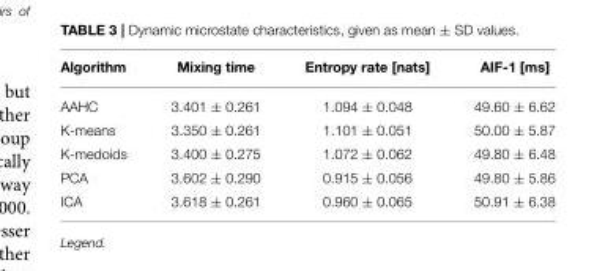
<table><thead><tr><td>Algorithm</td><td>Mixing time</td><td>Entropy rate [nats]</td><td>AIF-1 [ms]</td></tr></thead><tbody><tr><td>AAHC</td><td>3.401 ± 0.261</td><td>1.094 ± 0.048</td><td>49.60 ± 6.62</td></tr><tr><td>K-means</td><td>3.350 ± 0.261</td><td>1.101 ± 0.051</td><td>50.00 ± 5.87</td></tr><tr><td>K-medoids</td><td>3.400 ± 0.275</td><td>1.072 ± 0.062</td><td>49.80 ± 6.48</td></tr><tr><td>PCA</td><td>3.602 ± 0.290</td><td>0.915 ± 0.056</td><td>49.80 ± 5.86</td></tr><tr><td>ICA</td><td>3.618 ± 0.261</td><td>0.960 ± 0.065</td><td>50.91 ± 6.38</td></tr></tbody></table>